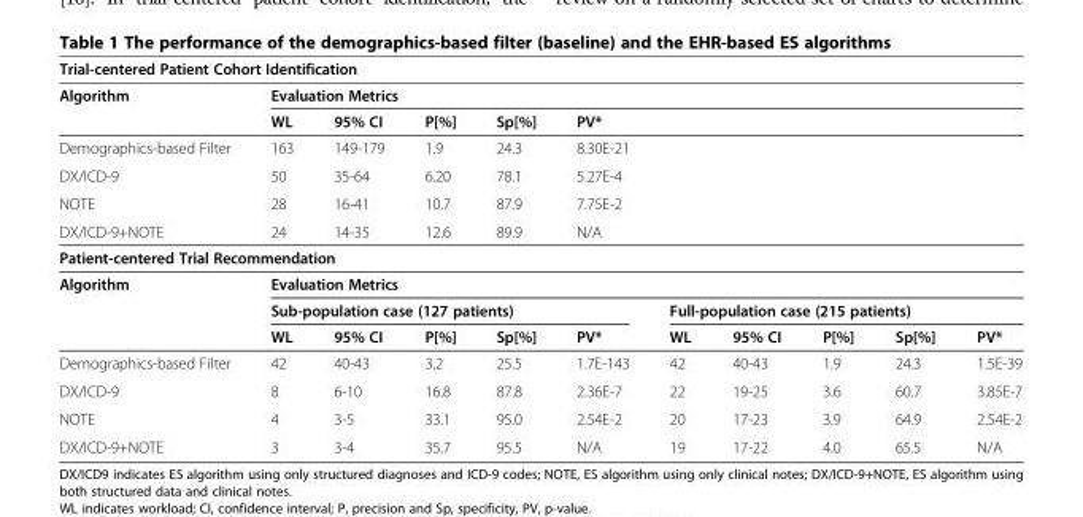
<table><thead><tr><td colspan="11">Trial-centered Patient Cohort Identification</td></tr><tr><td rowspan="2">Algorithm</td><td colspan="10">Evaluation Metrics</td></tr><tr><td>WL</td><td>95% CI</td><td>P[%]</td><td>Sp[%]</td><td>PV*</td><td></td><td></td><td></td><td></td><td></td></tr></thead><tbody><tr><td>Demographics-based Filter</td><td>163</td><td>149-179</td><td>1.9</td><td>24.3</td><td>8.30E-21</td><td></td><td></td><td></td><td></td><td></td></tr><tr><td>DX/ICD-9</td><td>50</td><td>35-64</td><td>6.20</td><td>78.1</td><td>5.27E-4</td><td></td><td></td><td></td><td></td><td></td></tr><tr><td>NOTE</td><td>28</td><td>16-41</td><td>10.7</td><td>87.9</td><td>7.75E-2</td><td></td><td></td><td></td><td></td><td></td></tr><tr><td>DX/ICD-9+NOTE</td><td>24</td><td>14-35</td><td>12.6</td><td>89.9</td><td>N/A</td><td></td><td></td><td></td><td></td><td></td></tr><tr><td colspan="11">Patient-centered Trial Recommendation</td></tr><tr><td rowspan="3">Algorithm</td><td colspan="10">Evaluation Metrics</td></tr><tr><td colspan="5">Sub-population case (127 patients)</td><td colspan="5">Full-population case (215 patients)</td></tr><tr><td>WL</td><td>95% CI</td><td>P[%]</td><td>Sp[%]</td><td>PV*</td><td>WL</td><td>95% CI</td><td>P[%]</td><td>Sp[%]</td><td>PV*</td></tr><tr><td>Demographics-based Filter</td><td>42</td><td>40-43</td><td>3.2</td><td>25.5</td><td>1.7E-143</td><td>42</td><td>40-43</td><td>1.9</td><td>24.3</td><td>1.5E-39</td></tr><tr><td>DX/ICD-9</td><td>8</td><td>6-10</td><td>16.8</td><td>87.8</td><td>2.36E-7</td><td>22</td><td>19-25</td><td>3.6</td><td>60.7</td><td>3.85E-7</td></tr><tr><td>NOTE</td><td>4</td><td>3-5</td><td>33.1</td><td>95.0</td><td>2.54E-2</td><td>20</td><td>17-23</td><td>3.9</td><td>64.9</td><td>2.54E-2</td></tr><tr><td>DX/ICD-9+NOTE</td><td>3</td><td>3-4</td><td>35.7</td><td>95.5</td><td>N/A</td><td>19</td><td>17-22</td><td>4.0</td><td>65.5</td><td>N/A</td></tr></tbody></table>